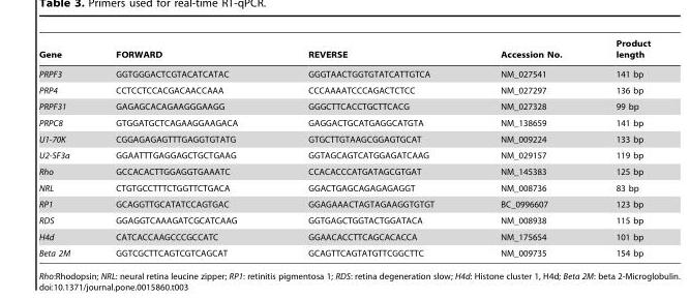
<table><thead><tr><td>Gene</td><td>FORWARD</td><td>REVERSE</td><td>Accession No.</td><td>Product length</td></tr></thead><tbody><tr><td>PRPF3</td><td>GGTGGGACTCGTACATCATAC</td><td>GGGTAACTGGTGTATCATTGTCA</td><td>NM_027541</td><td>141 bp</td></tr><tr><td>PRP4</td><td>CCTCCTCCACGACAACCAAA</td><td>CCCAAAATCCCAGACTCTCC</td><td>NM_027297</td><td>136 bp</td></tr><tr><td>PRPF31</td><td>GAGAGCACAGAAGGGAAGG</td><td>GGGCTTCACCTGCTTCACG</td><td>NM_027328</td><td>99 bp</td></tr><tr><td>PRPC8</td><td>GTGGATGCTCAGAAGGAAGACA</td><td>GAGGACTGCATGAGGCATGTA</td><td>NM_138659</td><td>141 bp</td></tr><tr><td>U1-70K</td><td>CGGAGAGAGTTTGAGGTGTATG</td><td>GTGCTTGTAAGCGGAGTGCAT</td><td>NM_009224</td><td>133 bp</td></tr><tr><td>U2-SF3a</td><td>GGAATTTGAGGAGCTGCTGAAG</td><td>GGTAGCAGTCATGGAGATCAAG</td><td>NM_029157</td><td>119 bp</td></tr><tr><td>Rho</td><td>GCCACACTTGGAGGTGAAATC</td><td>CCACACCCATGATAGCGTGAT</td><td>NM_145383</td><td>125 bp</td></tr><tr><td>NRL</td><td>CTGTGCCTTTCTGGTTCTGACA</td><td>GGACTGAGCAGAGAGAGGT</td><td>NM_008736</td><td>83 bp</td></tr><tr><td>RP1</td><td>GCAGGTTGCATATCCAGTGAC</td><td>GGAGAAACTAGTAGAAGGTGTGT</td><td>BC_0996607</td><td>123 bp</td></tr><tr><td>RDS</td><td>GGAGGTCAAAGATCGCATCAAG</td><td>GGTGAGCTGGTACTGGATACA</td><td>NM_008938</td><td>115 bp</td></tr><tr><td>H4d</td><td>CATCACCAAGCCCGCCATC</td><td>GGAACACCTTCAGCACACCA</td><td>NM_175654</td><td>101 bp</td></tr><tr><td>Beta 2M</td><td>GGTCGCTTCAGTCGTCAGCAT</td><td>GCAGTTCAGTATGTTCGGCTTC</td><td>NM_009735</td><td>154 bp</td></tr></tbody></table>